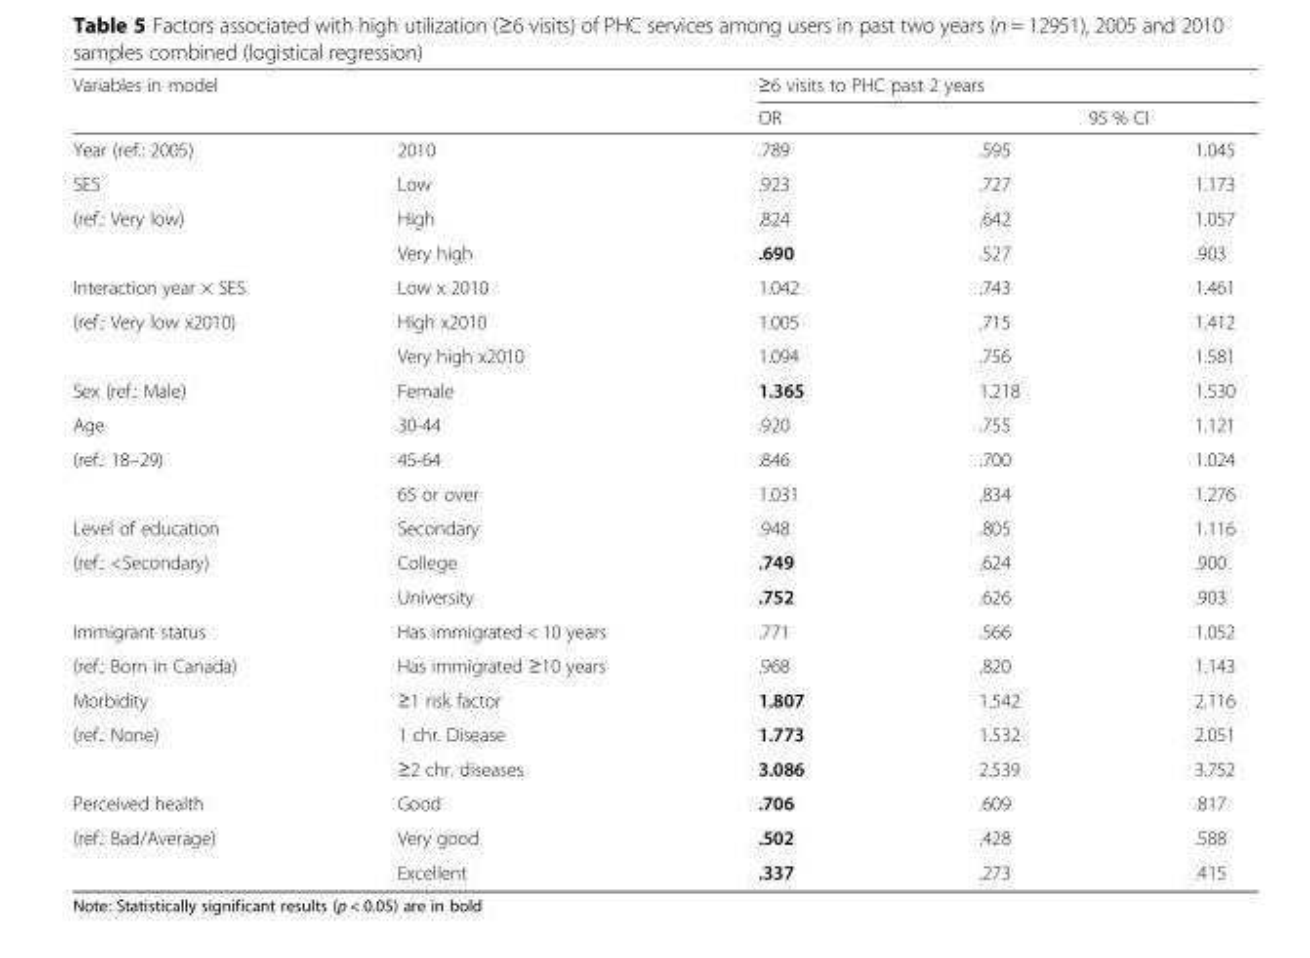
<table><thead><tr><td rowspan="3">Variables in model Year (ref.: 2005)</td><td rowspan="3">2010</td><td colspan="3">≥6 visits to PHC past 2 years</td></tr><tr><td rowspan="2">OR .789</td><td colspan="2">95 % CI</td></tr><tr><td>.595</td><td>1.045</td></tr></thead><tbody><tr><td>SES</td><td>Low</td><td>.923</td><td>.727</td><td>1.173</td></tr><tr><td rowspan="2">(ref.: Very low)</td><td>High</td><td>.824</td><td>.642</td><td>1.057</td></tr><tr><td>Very high</td><td>.690</td><td>.527</td><td>.903</td></tr><tr><td>Interaction year × SES</td><td>Low x 2010</td><td>1.042</td><td>.743</td><td>1.461</td></tr><tr><td rowspan="2">(ref.: Very low x2010)</td><td>High x2010</td><td>1.005</td><td>.715</td><td>1.412</td></tr><tr><td>Very high x2010</td><td>1.094</td><td>.756</td><td>1.581</td></tr><tr><td>Sex (ref.: Male)</td><td>Female</td><td>1.365</td><td>1.218</td><td>1.530</td></tr><tr><td>Age</td><td>30-44</td><td>.920</td><td>.755</td><td>1.121</td></tr><tr><td rowspan="2">(ref.: 18–29)</td><td>45-64</td><td>.846</td><td>.700</td><td>1.024</td></tr><tr><td>65 or over</td><td>1.031</td><td>.834</td><td>1.276</td></tr><tr><td>Level of education</td><td>Secondary</td><td>.948</td><td>.805</td><td>1.116</td></tr><tr><td rowspan="2">(ref.: &lt;Secondary)</td><td>College</td><td>.749</td><td>.624</td><td>.900</td></tr><tr><td>University</td><td>.752</td><td>.626</td><td>.903</td></tr><tr><td>Immigrant status</td><td>Has immigrated &lt; 10 years</td><td>.771</td><td>.566</td><td>1.052</td></tr><tr><td>(ref.: Born in Canada)</td><td>Has immigrated ≥10 years</td><td>.968</td><td>.820</td><td>1.143</td></tr><tr><td>Morbidity</td><td>≥1 risk factor</td><td>1.807</td><td>1.542</td><td>2.116</td></tr><tr><td rowspan="2">(ref.: None)</td><td>1 chr. Disease</td><td>1.773</td><td>1.532</td><td>2.051</td></tr><tr><td>≥2 chr. diseases</td><td>3.086</td><td>2.539</td><td>3.752</td></tr><tr><td>Perceived health</td><td>Good</td><td>.706</td><td>.609</td><td>.817</td></tr><tr><td rowspan="2">(ref.: Bad/Average)</td><td>Very good</td><td>.502</td><td>.428</td><td>.588</td></tr><tr><td>Excellent</td><td>.337</td><td>.273</td><td>.415</td></tr></tbody></table>